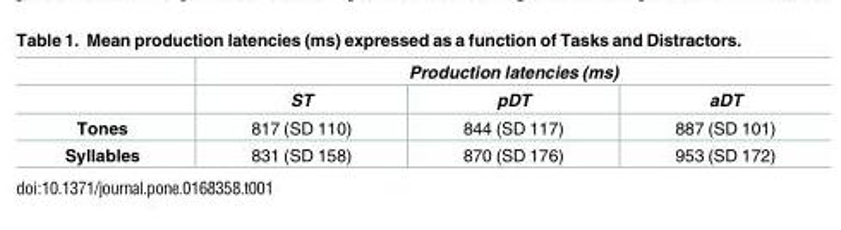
<table><thead><tr><td rowspan="2"></td><td colspan="3">Production latencies (ms)</td></tr><tr><td>ST</td><td>pDT</td><td>aDT</td></tr></thead><tbody><tr><td>Tones</td><td>817 (SD 110)</td><td>844 (SD 117)</td><td>887 (SD 101)</td></tr><tr><td>Syllables</td><td>831 (SD 158)</td><td>870 (SD 176)</td><td>953 (SD 172)</td></tr></tbody></table>